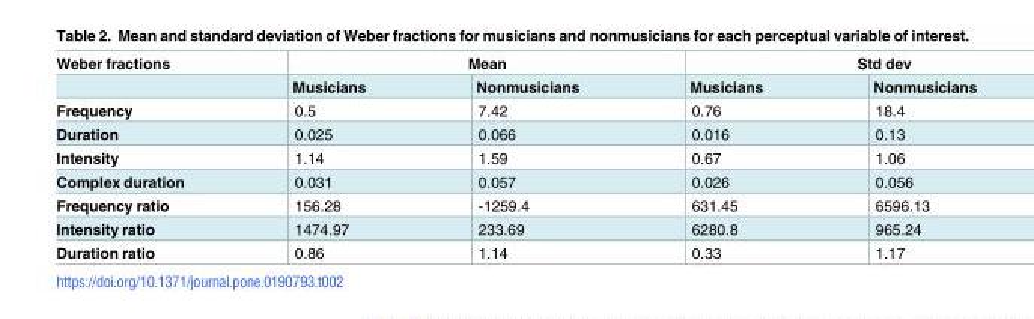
<table><thead><tr><td rowspan="2">Weber fractions</td><td colspan="2">Mean</td><td colspan="2">Std dev</td></tr><tr><td>Musicians</td><td>Nonmusicians</td><td>Musicians</td><td>Nonmusicians</td></tr></thead><tbody><tr><td>Frequency</td><td>0.5</td><td>7.42</td><td>0.76</td><td>18.4</td></tr><tr><td>Duration</td><td>0.025</td><td>0.066</td><td>0.016</td><td>0.13</td></tr><tr><td>Intensity</td><td>1.14</td><td>1.59</td><td>0.67</td><td>1.06</td></tr><tr><td>Complex duration</td><td>0.031</td><td>0.057</td><td>0.026</td><td>0.056</td></tr><tr><td>Frequency ratio</td><td>156.28</td><td>-1259.4</td><td>631.45</td><td>6596.13</td></tr><tr><td>Intensity ratio</td><td>1474.97</td><td>233.69</td><td>6280.8</td><td>965.24</td></tr><tr><td>Duration ratio</td><td>0.86</td><td>1.14</td><td>0.33</td><td>1.17</td></tr></tbody></table>